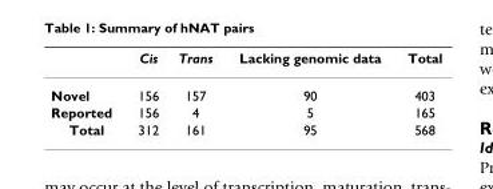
<table><thead><tr><td></td><td>Cis</td><td>Trans</td><td>Lacking genomic data</td><td>Total</td></tr></thead><tbody><tr><td>Novel</td><td>156</td><td>157</td><td>90</td><td>403</td></tr><tr><td>Reported</td><td>156</td><td>4</td><td>5</td><td>165</td></tr><tr><td>Total</td><td>312</td><td>161</td><td>95</td><td>568</td></tr></tbody></table>